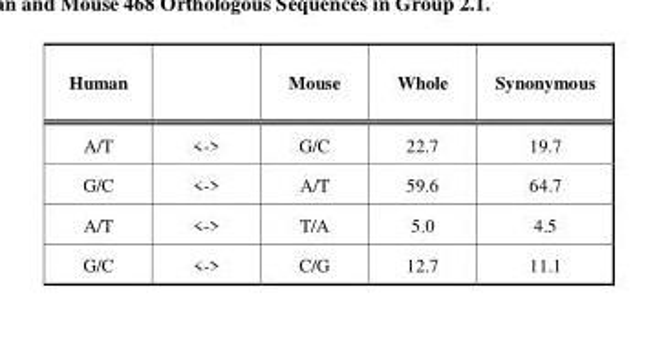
<table><thead><tr><td>Human</td><td></td><td>Mouse</td><td>Whole</td><td>Synonymous</td></tr></thead><tbody><tr><td>A/T</td><td>&lt;-&gt;</td><td>G/C</td><td>22.7</td><td>19.7</td></tr><tr><td>G/C</td><td>&lt;-&gt;</td><td>A/T</td><td>59.6</td><td>64.7</td></tr><tr><td>A/T</td><td>&lt;-&gt;</td><td>T/A</td><td>5.0</td><td>4.5</td></tr><tr><td>G/C</td><td>&lt;-&gt;</td><td>C/G</td><td>12.7</td><td>11.1</td></tr></tbody></table>